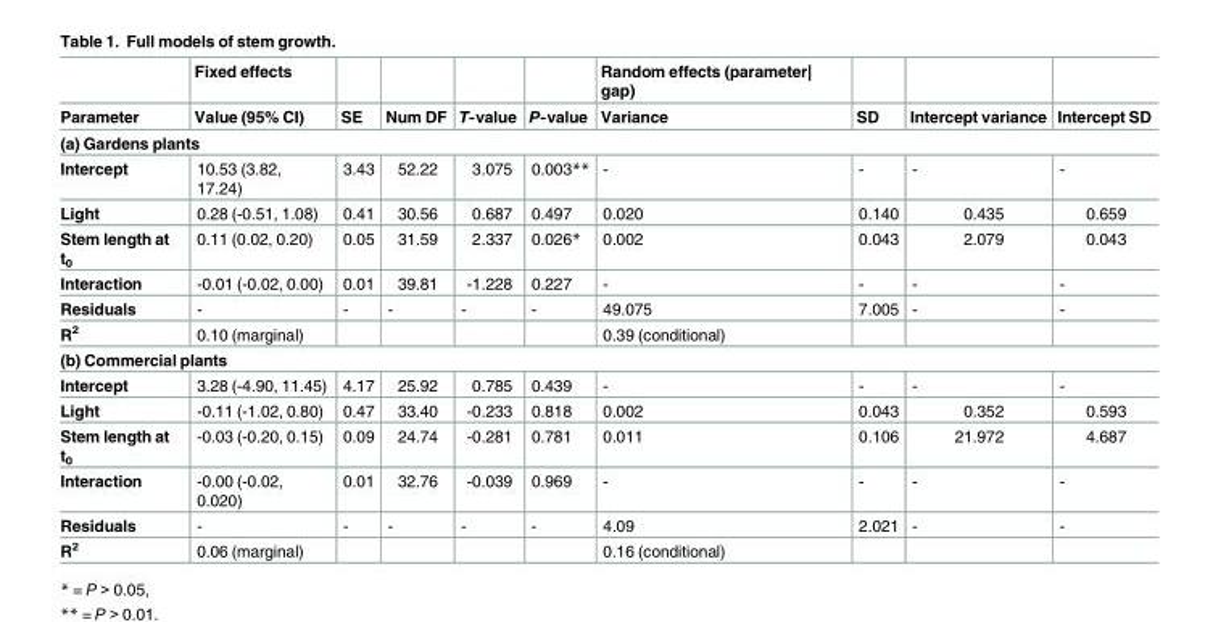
<table><thead><tr><td rowspan="2">Parameter</td><td rowspan="2">Fixed effects Value (95% CI)</td><td rowspan="2">SE</td><td rowspan="2">Num DF</td><td rowspan="2">T-value</td><td rowspan="2">P-value</td><td rowspan="2">Random effects (parameter| gap) Variance</td><td rowspan="2">SD</td><td rowspan="2">Intercept variance</td><td rowspan="2">Intercept SD</td></tr><tr></tr></thead><tbody><tr><td colspan="10">(a) Gardens plants</td></tr><tr><td>Intercept</td><td>10.53 (3.82, 17.24)</td><td>3.43</td><td>52.22</td><td>3.075</td><td>0.003**</td><td>-</td><td>-</td><td>-</td><td>-</td></tr><tr><td>Light</td><td>0.28 (-0.51, 1.08)</td><td>0.41</td><td>30.56</td><td>0.687</td><td>0.497</td><td>0.020</td><td>0.140</td><td>0.435</td><td>0.659</td></tr><tr><td>Stem length at t<sub>0</sub></td><td>0.11 (0.02, 0.20)</td><td>0.05</td><td>31.59</td><td>2.337</td><td>0.026*</td><td>0.002</td><td>0.043</td><td>2.079</td><td>0.043</td></tr><tr><td>Interaction</td><td>-0.01 (-0.02, 0.00)</td><td>0.01</td><td>39.81</td><td>-1.228</td><td>0.227</td><td>-</td><td>-</td><td>-</td><td>-</td></tr><tr><td>Residuals</td><td>-</td><td>-</td><td>-</td><td>-</td><td>-</td><td>49.075</td><td>7.005</td><td>-</td><td>-</td></tr><tr><td>R<sup>2</sup></td><td>0.10 (marginal)</td><td></td><td></td><td></td><td></td><td>0.39 (conditional)</td><td></td><td></td><td></td></tr><tr><td colspan="10">(b) Commercial plants</td></tr><tr><td>Intercept</td><td>3.28 (-4.90, 11.45)</td><td>4.17</td><td>25.92</td><td>0.785</td><td>0.439</td><td>-</td><td>-</td><td>-</td><td>-</td></tr><tr><td>Light</td><td>-0.11 (-1.02, 0.80)</td><td>0.47</td><td>33.40</td><td>-0.233</td><td>0.818</td><td>0.002</td><td>0.043</td><td>0.352</td><td>0.593</td></tr><tr><td>Stem length at t<sub>0</sub></td><td>-0.03 (-0.20, 0.15)</td><td>0.09</td><td>24.74</td><td>-0.281</td><td>0.781</td><td>0.011</td><td>0.106</td><td>21.972</td><td>4.687</td></tr><tr><td>Interaction</td><td>-0.00 (-0.02, 0.020)</td><td>0.01</td><td>32.76</td><td>-0.039</td><td>0.969</td><td>-</td><td>-</td><td>-</td><td>-</td></tr><tr><td>Residuals</td><td>-</td><td>-</td><td>-</td><td>-</td><td>-</td><td>4.09</td><td>2.021</td><td>-</td><td>-</td></tr><tr><td>R<sup>2</sup></td><td>0.06 (marginal)</td><td></td><td></td><td></td><td></td><td>0.16 (conditional)</td><td></td><td></td><td></td></tr></tbody></table>